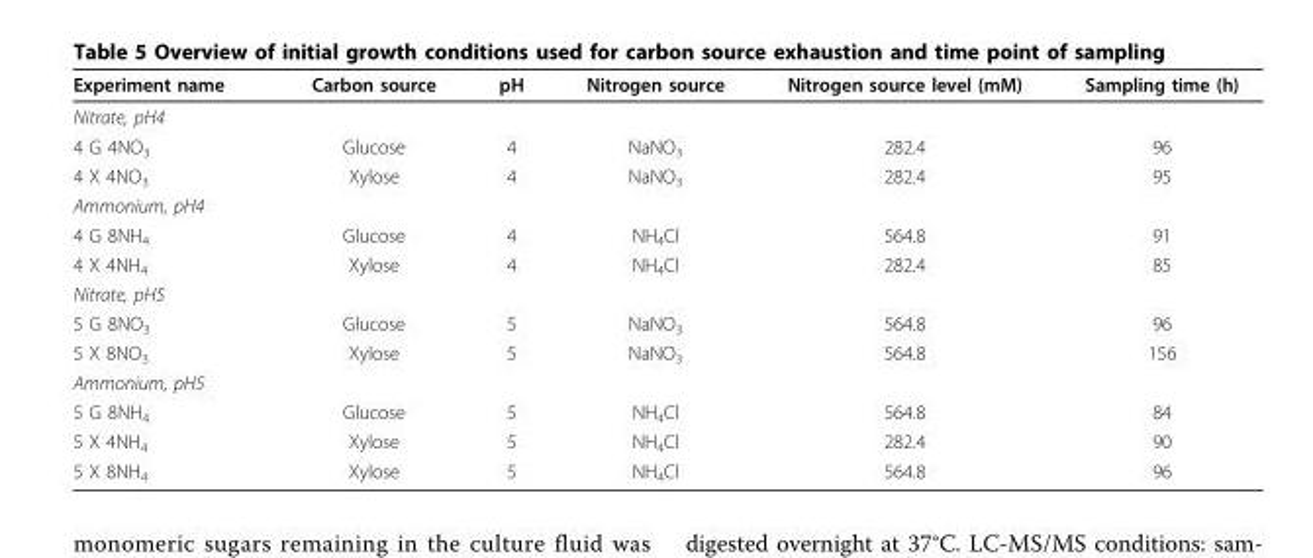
<table><thead><tr><td>Experiment name</td><td>Carbon source</td><td>pH</td><td>Nitrogen source</td><td>Nitrogen source level (mM)</td><td>Sampling time (h)</td></tr></thead><tbody><tr><td colspan="6">Nitrate, pH4</td></tr><tr><td>4 G 4NO<sub>3</sub></td><td>Glucose</td><td>4</td><td>NaNO<sub>3</sub></td><td>282.4</td><td>96</td></tr><tr><td>4 X 4NO<sub>3</sub></td><td>Xylose</td><td>4</td><td>NaNO<sub>3</sub></td><td>282.4</td><td>95</td></tr><tr><td colspan="6">Ammonium, pH4</td></tr><tr><td>4 G 8NH<sub>4</sub></td><td>Glucose</td><td>4</td><td>NH<sub>4</sub>Cl</td><td>564.8</td><td>91</td></tr><tr><td>4 X 4NH<sub>4</sub></td><td>Xylose</td><td>4</td><td>NH<sub>4</sub>Cl</td><td>282.4</td><td>85</td></tr><tr><td colspan="6">Nitrate, pH5</td></tr><tr><td>5 G 8NO<sub>3</sub></td><td>Glucose</td><td>5</td><td>NaNO<sub>3</sub></td><td>564.8</td><td>96</td></tr><tr><td>5 X 8NO<sub>3</sub></td><td>Xylose</td><td>5</td><td>NaNO<sub>3</sub></td><td>564.8</td><td>156</td></tr><tr><td colspan="6">Ammonium, pH5</td></tr><tr><td>5 G 8NH<sub>4</sub></td><td>Glucose</td><td>5</td><td>NH<sub>4</sub>Cl</td><td>564.8</td><td>84</td></tr><tr><td>5 X 4NH<sub>4</sub></td><td>Xylose</td><td>5</td><td>NH<sub>4</sub>Cl</td><td>282.4</td><td>90</td></tr><tr><td>5 X 8NH<sub>4</sub></td><td>Xylose</td><td>5</td><td>NH<sub>4</sub>Cl</td><td>564.8</td><td>96</td></tr></tbody></table>